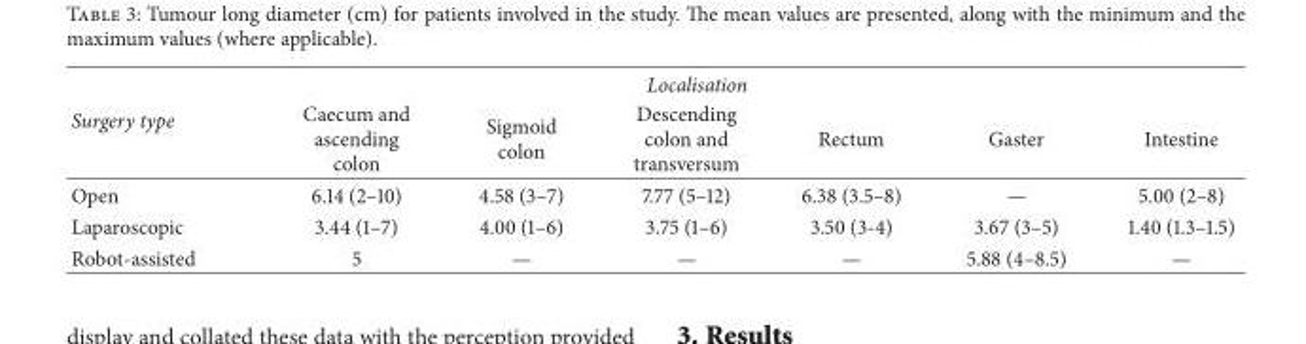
<table><thead><tr><td rowspan="2">Surgery type</td><td colspan="6">Localisation</td></tr><tr><td>Caecum and ascending colon</td><td>Sigmoid colon</td><td>Descending colon and transversum</td><td>Rectum</td><td>Gaster</td><td>Intestine</td></tr></thead><tbody><tr><td>Open</td><td>6.14 (2–10)</td><td>4.58 (3–7)</td><td>7.77 (5–12)</td><td>6.38 (3.5–8)</td><td>—</td><td>5.00 (2–8)</td></tr><tr><td>Laparoscopic</td><td>3.44 (1–7)</td><td>4.00 (1–6)</td><td>3.75 (1–6)</td><td>3.50 (3-4)</td><td>3.67 (3–5)</td><td>1.40 (1.3–1.5)</td></tr><tr><td>Robot-assisted</td><td>5</td><td>—</td><td>—</td><td>—</td><td>5.88 (4–8.5)</td><td>—</td></tr></tbody></table>